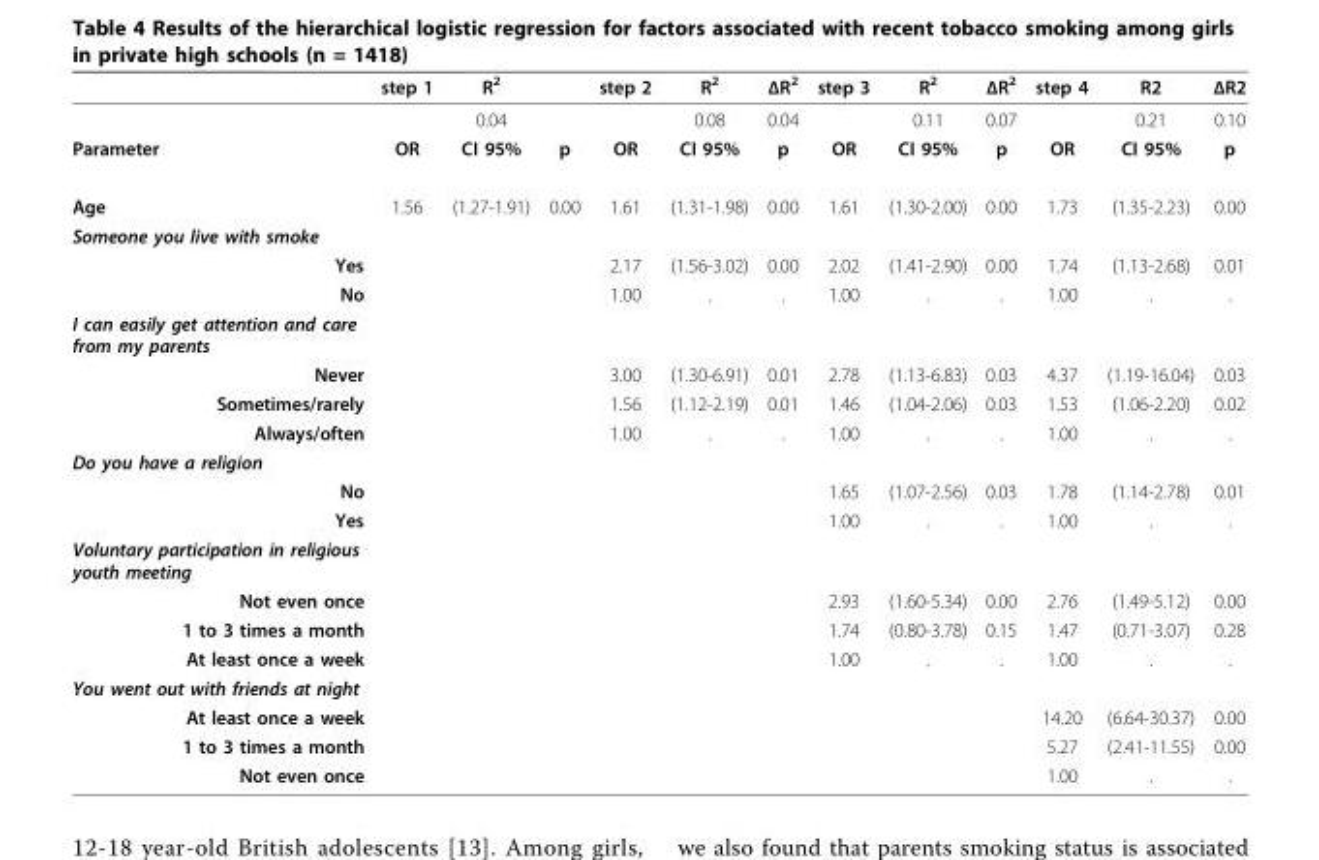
<table><thead><tr><td></td><td>step 1</td><td>R<sup>2</sup></td><td></td><td>step 2</td><td>R<sup>2</sup></td><td>ΔR<sup>2</sup></td><td>step 3</td><td>R<sup>2</sup></td><td>ΔR<sup>2</sup></td><td>step 4</td><td>R2</td><td>ΔR2</td></tr></thead><tbody><tr><td></td><td></td><td>0.04</td><td></td><td></td><td>0.08</td><td>0.04</td><td></td><td>0.11</td><td>0.07</td><td></td><td>0.21</td><td>0.10</td></tr><tr><td>Parameter</td><td>OR</td><td>CI 95%</td><td>p</td><td>OR</td><td>CI 95%</td><td>p</td><td>OR</td><td>CI 95%</td><td>p</td><td>OR</td><td>CI 95%</td><td>p</td></tr><tr><td>Age</td><td>1.56</td><td>(1.27-1.91)</td><td>0.00</td><td>1.61</td><td>(1.31-1.98)</td><td>0.00</td><td>1.61</td><td>(1.30-2.00)</td><td>0.00</td><td>1.73</td><td>(1.35-2.23)</td><td>0.00</td></tr><tr><td colspan="13">Someone you live with smoke</td></tr><tr><td>Yes</td><td></td><td></td><td></td><td>2.17</td><td>(1.56-3.02)</td><td>0.00</td><td>2.02</td><td>(1.41-2.90)</td><td>0.00</td><td>1.74</td><td>(1.13-2.68)</td><td>0.01</td></tr><tr><td>No</td><td></td><td></td><td></td><td>1.00</td><td>.</td><td>.</td><td>1.00</td><td>.</td><td>.</td><td>1.00</td><td>.</td><td>.</td></tr><tr><td colspan="13">I can easily get attention and care from my parents</td></tr><tr><td>Never</td><td></td><td></td><td></td><td>3.00</td><td>(1.30-6.91)</td><td>0.01</td><td>2.78</td><td>(1.13-6.83)</td><td>0.03</td><td>4.37</td><td>(1.19-16.04)</td><td>0.03</td></tr><tr><td>Sometimes/rarely</td><td></td><td></td><td></td><td>1.56</td><td>(1.12-2.19)</td><td>0.01</td><td>1.46</td><td>(1.04-2.06)</td><td>0.03</td><td>1.53</td><td>(1.06-2.20)</td><td>0.02</td></tr><tr><td>Always/often</td><td></td><td></td><td></td><td>1.00</td><td>.</td><td>.</td><td>1.00</td><td>.</td><td>.</td><td>1.00</td><td>.</td><td>.</td></tr><tr><td colspan="13">Do you have a religion</td></tr><tr><td>No</td><td></td><td></td><td></td><td></td><td></td><td></td><td>1.65</td><td>(1.07-2.56)</td><td>0.03</td><td>1.78</td><td>(1.14-2.78)</td><td>0.01</td></tr><tr><td>Yes</td><td></td><td></td><td></td><td></td><td></td><td></td><td>1.00</td><td>.</td><td>.</td><td>1.00</td><td>.</td><td>.</td></tr><tr><td colspan="13">Voluntary participation in religious youth meeting</td></tr><tr><td>Not even once</td><td></td><td></td><td></td><td></td><td></td><td></td><td>2.93</td><td>(1.60-5.34)</td><td>0.00</td><td>2.76</td><td>(1.49-5.12)</td><td>0.00</td></tr><tr><td>1 to 3 times a month</td><td></td><td></td><td></td><td></td><td></td><td></td><td>1.74</td><td>(0.80-3.78)</td><td>0.15</td><td>1.47</td><td>(0.71-3.07)</td><td>0.28</td></tr><tr><td>At least once a week</td><td></td><td></td><td></td><td></td><td></td><td></td><td>1.00</td><td>.</td><td>.</td><td>1.00</td><td>.</td><td>.</td></tr><tr><td colspan="13">You went out with friends at night</td></tr><tr><td>At least once a week</td><td></td><td></td><td></td><td></td><td></td><td></td><td></td><td></td><td></td><td>14.20</td><td>(6.64-30.37)</td><td>0.00</td></tr><tr><td>1 to 3 times a month</td><td></td><td></td><td></td><td></td><td></td><td></td><td></td><td></td><td></td><td>5.27</td><td>(2.41-11.55)</td><td>0.00</td></tr><tr><td>Not even once</td><td></td><td></td><td></td><td></td><td></td><td></td><td></td><td></td><td></td><td>1.00</td><td>.</td><td>.</td></tr></tbody></table>